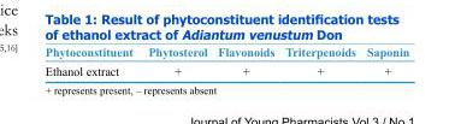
<table><thead><tr><td>Phytoconstituent</td><td>Phytosterol</td><td>Flavonoids</td><td>Triterpenoids</td><td>Saponin</td></tr></thead><tbody><tr><td>Ethanol extract</td><td>+</td><td>+</td><td>+</td><td>+</td></tr></tbody></table>